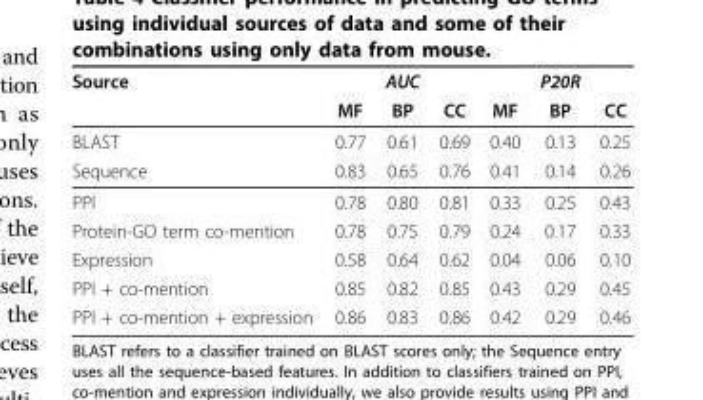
<table><thead><tr><td rowspan="2">Source</td><td rowspan="2">MF</td><td rowspan="2">AUC BP</td><td rowspan="2">CC</td><td rowspan="2">MF</td><td rowspan="2">P20R BP</td><td rowspan="2">CC</td></tr><tr></tr></thead><tbody><tr><td>BLAST</td><td>0.77</td><td>0.61</td><td>0.69</td><td>0.40</td><td>0.13</td><td>0.25</td></tr><tr><td>Sequence</td><td>0.83</td><td>0.65</td><td>0.76</td><td>0.41</td><td>0.14</td><td>0.26</td></tr><tr><td>PPI</td><td>0.78</td><td>0.80</td><td>0.81</td><td>0.33</td><td>0.25</td><td>0.43</td></tr><tr><td>Protein-GO term co-mention</td><td>0.78</td><td>0.75</td><td>0.79</td><td>0.24</td><td>0.17</td><td>0.33</td></tr><tr><td>Expression</td><td>0.58</td><td>0.64</td><td>0.62</td><td>0.04</td><td>0.06</td><td>0.10</td></tr><tr><td>PPI + co-mention</td><td>0.85</td><td>0.82</td><td>0.85</td><td>0.43</td><td>0.29</td><td>0.45</td></tr><tr><td>PPI + co-mention + expression</td><td>0.86</td><td>0.83</td><td>0.86</td><td>0.42</td><td>0.29</td><td>0.46</td></tr></tbody></table>